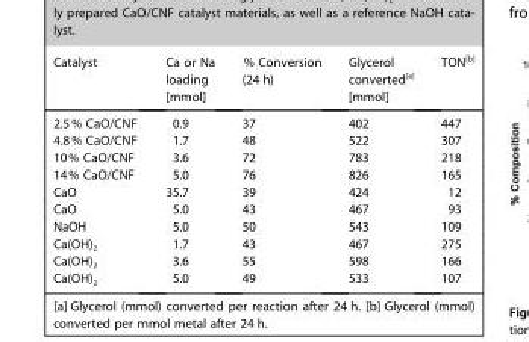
<table><thead><tr><td>Catalyst</td><td>Ca or Na loading [mmol]</td><td>% Conversion (24 h)</td><td>Glycerol converted[a] [mmol]</td><td>TON[b]</td></tr></thead><tbody><tr><td>2.5% CaO/CNF</td><td>0.9</td><td>37</td><td>402</td><td>447</td></tr><tr><td>4.8% CaO/CNF</td><td>1.7</td><td>48</td><td>522</td><td>307</td></tr><tr><td>10% CaO/CNF</td><td>3.6</td><td>72</td><td>783</td><td>218</td></tr><tr><td>14% CaO/CNF</td><td>5.0</td><td>76</td><td>826</td><td>165</td></tr><tr><td>CaO</td><td>35.7</td><td>39</td><td>424</td><td>12</td></tr><tr><td>CaO</td><td>5.0</td><td>43</td><td>467</td><td>93</td></tr><tr><td>NaOH</td><td>5.0</td><td>50</td><td>543</td><td>109</td></tr><tr><td>Ca(OH)<sub>2</sub></td><td>1.7</td><td>43</td><td>467</td><td>275</td></tr><tr><td>Ca(OH)<sub>2</sub></td><td>3.6</td><td>55</td><td>598</td><td>166</td></tr><tr><td>Ca(OH)<sub>2</sub></td><td>5.0</td><td>49</td><td>533</td><td>107</td></tr></tbody></table>